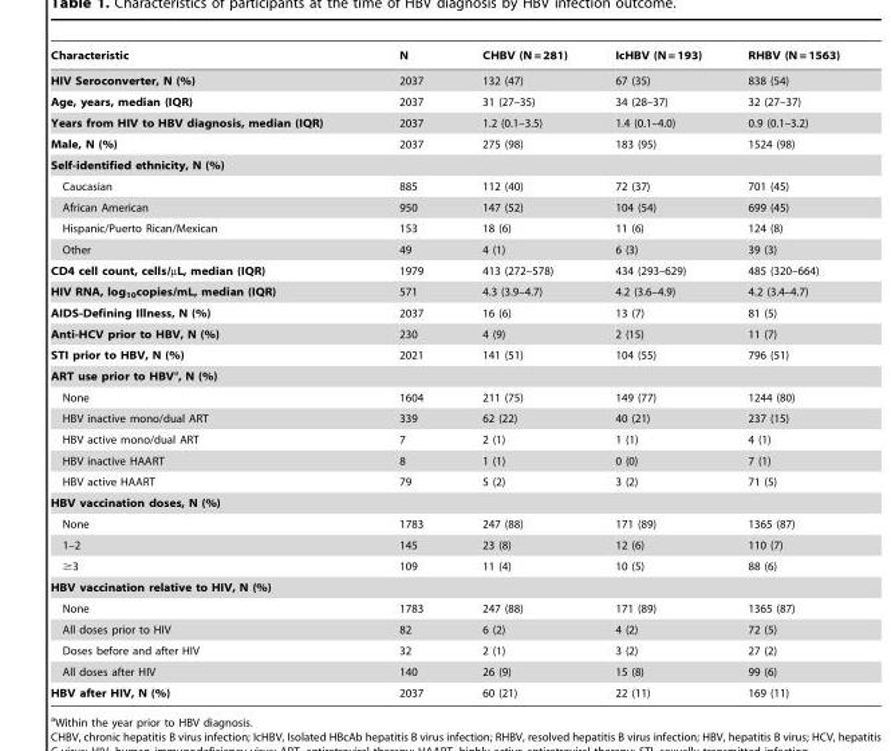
<table><thead><tr><td>Characteristic</td><td>N</td><td>CHBV (N = 281)</td><td>IcHBV (N = 193)</td><td>RHBV (N = 1563)</td></tr></thead><tbody><tr><td>HIV Seroconverter, N (%)</td><td>2037</td><td>132 (47)</td><td>67 (35)</td><td>838 (54)</td></tr><tr><td>Age, years, median (IQR)</td><td>2037</td><td>31 (27–35)</td><td>34 (28–37)</td><td>32 (27–37)</td></tr><tr><td>Years from HIV to HBV diagnosis, median (IQR)</td><td>2037</td><td>1.2 (0.1–3.5)</td><td>1.4 (0.1–4.0)</td><td>0.9 (0.1–3.2)</td></tr><tr><td>Male, N (%)</td><td>2037</td><td>275 (98)</td><td>183 (95)</td><td>1524 (98)</td></tr><tr><td colspan="5">Self-identified ethnicity, N (%)</td></tr><tr><td>Caucasian</td><td>885</td><td>112 (40)</td><td>72 (37)</td><td>701 (45)</td></tr><tr><td>African American</td><td>950</td><td>147 (52)</td><td>104 (54)</td><td>699 (45)</td></tr><tr><td>Hispanic/Puerto Rican/Mexican</td><td>153</td><td>18 (6)</td><td>11 (6)</td><td>124 (8)</td></tr><tr><td>Other</td><td>49</td><td>4 (1)</td><td>6 (3)</td><td>39 (3)</td></tr><tr><td>CD4 cell count, cells/µL, median (IQR)</td><td>1979</td><td>413 (272–578)</td><td>434 (293–629)</td><td>485 (320–664)</td></tr><tr><td>HIV RNA, log<sub>10</sub>copies/mL, median (IQR)</td><td>571</td><td>4.3 (3.9–4.7)</td><td>4.2 (3.6–4.9)</td><td>4.2 (3.4–4.7)</td></tr><tr><td>AIDS-Defining Illness, N (%)</td><td>2037</td><td>16 (6)</td><td>13 (7)</td><td>81 (5)</td></tr><tr><td>Anti-HCV prior to HBV, N (%)</td><td>230</td><td>4 (9)</td><td>2 (15)</td><td>11 (7)</td></tr><tr><td>STI prior to HBV, N (%)</td><td>2021</td><td>141 (51)</td><td>104 (55)</td><td>796 (51)</td></tr><tr><td colspan="5">ART use prior to HBVa, N (%)</td></tr><tr><td>None</td><td>1604</td><td>211 (75)</td><td>149 (77)</td><td>1244 (80)</td></tr><tr><td>HBV inactive mono/dual ART</td><td>339</td><td>62 (22)</td><td>40 (21)</td><td>237 (15)</td></tr><tr><td>HBV active mono/dual ART</td><td>7</td><td>2 (1)</td><td>1 (1)</td><td>4 (1)</td></tr><tr><td>HBV inactive HAART</td><td>8</td><td>1 (1)</td><td>0 (0)</td><td>7 (1)</td></tr><tr><td>HBV active HAART</td><td>79</td><td>5 (2)</td><td>3 (2)</td><td>71 (5)</td></tr><tr><td colspan="5">HBV vaccination doses, N (%)</td></tr><tr><td>None</td><td>1783</td><td>247 (88)</td><td>171 (89)</td><td>1365 (87)</td></tr><tr><td>1–2</td><td>145</td><td>23 (8)</td><td>12 (6)</td><td>110 (7)</td></tr><tr><td>≥3</td><td>109</td><td>11 (4)</td><td>10 (5)</td><td>88 (6)</td></tr><tr><td colspan="5">HBV vaccination relative to HIV, N (%)</td></tr><tr><td>None</td><td>1783</td><td>247 (88)</td><td>171 (89)</td><td>1365 (87)</td></tr><tr><td>All doses prior to HIV</td><td>82</td><td>6 (2)</td><td>4 (2)</td><td>72 (5)</td></tr><tr><td>Doses before and after HIV</td><td>32</td><td>2 (1)</td><td>3 (2)</td><td>27 (2)</td></tr><tr><td>All doses after HIV</td><td>140</td><td>26 (9)</td><td>15 (8)</td><td>99 (6)</td></tr><tr><td>HBV after HIV, N (%)</td><td>2037</td><td>60 (21)</td><td>22 (11)</td><td>169 (11)</td></tr></tbody></table>